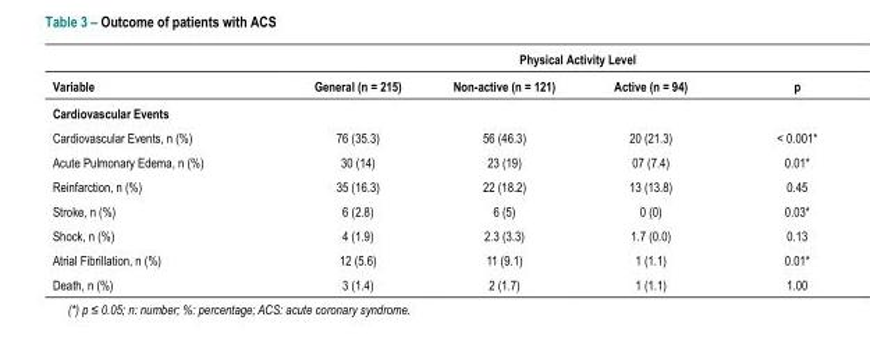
<table><thead><tr><td rowspan="2">Variable</td><td colspan="4">Physical Activity Level</td></tr><tr><td>General (n = 215)</td><td>Non-active (n = 121)</td><td>Active (n = 94)</td><td>p</td></tr></thead><tbody><tr><td colspan="5">Cardiovascular Events</td></tr><tr><td>Cardiovascular Events, n (%)</td><td>76 (35.3)</td><td>56 (46.3)</td><td>20 (21.3)</td><td>&lt; 0.001*</td></tr><tr><td>Acute Pulmonary Edema, n (%)</td><td>30 (14)</td><td>23 (19)</td><td>07 (7.4)</td><td>0.01*</td></tr><tr><td>Reinfarction, n (%)</td><td>35 (16.3)</td><td>22 (18.2)</td><td>13 (13.8)</td><td>0.45</td></tr><tr><td>Stroke, n (%)</td><td>6 (2.8)</td><td>6 (5)</td><td>0 (0)</td><td>0.03*</td></tr><tr><td>Shock, n (%)</td><td>4 (1.9)</td><td>2.3 (3.3)</td><td>1.7 (0.0)</td><td>0.13</td></tr><tr><td>Atrial Fibrillation, n (%)</td><td>12 (5.6)</td><td>11 (9.1)</td><td>1 (1.1)</td><td>0.01*</td></tr><tr><td>Death, n (%)</td><td>3 (1.4)</td><td>2 (1.7)</td><td>1 (1.1)</td><td>1.00</td></tr></tbody></table>